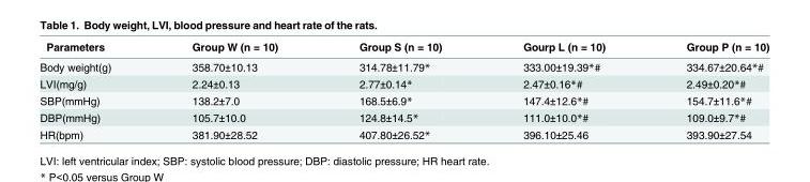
<table><thead><tr><td>Parameters</td><td>Group W (n = 10)</td><td>Group S (n = 10)</td><td>Gourp L (n = 10)</td><td>Group P (n = 10)</td></tr></thead><tbody><tr><td>Body weight(g)</td><td>358.70±10.13</td><td>314.78±11.79*</td><td>333.00±19.39*#</td><td>334.67±20.64*#</td></tr><tr><td>LVI(mg/g)</td><td>2.24±0.13</td><td>2.77±0.14*</td><td>2.47±0.16*#</td><td>2.49±0.20*#</td></tr><tr><td>SBP(mmHg)</td><td>138.2±7.0</td><td>168.5±6.9*</td><td>147.4±12.6*#</td><td>154.7±11.6*#</td></tr><tr><td>DBP(mmHg)</td><td>105.7±10.0</td><td>124.8±14.5*</td><td>111.0±10.0*#</td><td>109.0±9.7*#</td></tr><tr><td>HR(bpm)</td><td>381.90±28.52</td><td>407.80±26.52*</td><td>396.10±25.46</td><td>393.90±27.54</td></tr></tbody></table>